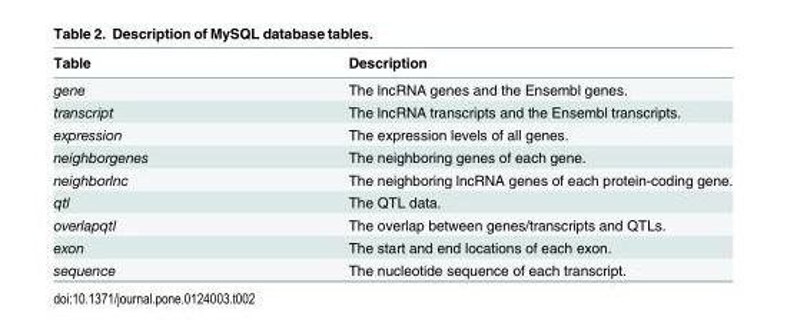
<table><thead><tr><td>Table</td><td>Description</td></tr></thead><tbody><tr><td>gene</td><td>The lncRNA genes and the Ensembl genes.</td></tr><tr><td>transcript</td><td>The lncRNA transcripts and the Ensembl transcripts.</td></tr><tr><td>expression</td><td>The expression levels of all genes.</td></tr><tr><td>neighborgenes</td><td>The neighboring genes of each gene.</td></tr><tr><td>neighborlnc</td><td>The neighboring lncRNA genes of each protein-coding gene.</td></tr><tr><td>qtl</td><td>The QTL data.</td></tr><tr><td>overlapqtl</td><td>The overlap between genes/transcripts and QTLs.</td></tr><tr><td>exon</td><td>The start and end locations of each exon.</td></tr><tr><td>sequence</td><td>The nucleotide sequence of each transcript.</td></tr></tbody></table>